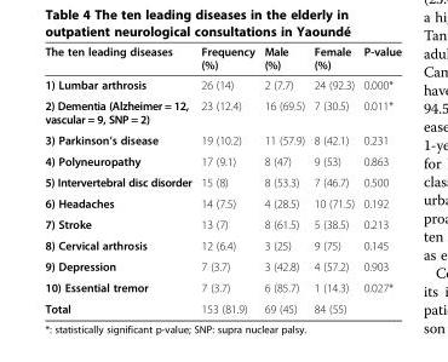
<table><thead><tr><td>The ten leading diseases</td><td>Frequency (%)</td><td>Male (%)</td><td>Female (%)</td><td>P-value</td></tr></thead><tbody><tr><td>1) Lumbar arthrosis</td><td>26 (14)</td><td>2 (7.7)</td><td>24 (92.3)</td><td>0.000*</td></tr><tr><td>2) Dementia (Alzheimer = 12, vascular = 9, SNP = 2)</td><td>23 (12.4)</td><td>16 (69.5)</td><td>7 (30.5)</td><td>0.011*</td></tr><tr><td>3) Parkinson’s disease</td><td>19 (10.2)</td><td>11 (57.9)</td><td>8 (42.1)</td><td>0.231</td></tr><tr><td>4) Polyneuropathy</td><td>17 (9.1)</td><td>8 (47)</td><td>9 (53)</td><td>0.863</td></tr><tr><td>5) Intervertebral disc disorder</td><td>15 (8)</td><td>8 (53.3)</td><td>7 (46.7)</td><td>0.500</td></tr><tr><td>6) Headaches</td><td>14 (7.5)</td><td>4 (28.5)</td><td>10 (71.5)</td><td>0.192</td></tr><tr><td>7) Stroke</td><td>13 (7)</td><td>8 (61.5)</td><td>5 (38.5)</td><td>0.213</td></tr><tr><td>8) Cervical arthrosis</td><td>12 (6.4)</td><td>3 (25)</td><td>9 (75)</td><td>0.145</td></tr><tr><td>9) Depression</td><td>7 (3.7)</td><td>3 (42.8)</td><td>4 (57.2)</td><td>0.903</td></tr><tr><td>10) Essential tremor</td><td>7 (3.7)</td><td>6 (85.7)</td><td>1 (14.3)</td><td>0.027*</td></tr><tr><td>Total</td><td>153 (81.9)</td><td>69 (45)</td><td>84 (55)</td><td></td></tr></tbody></table>